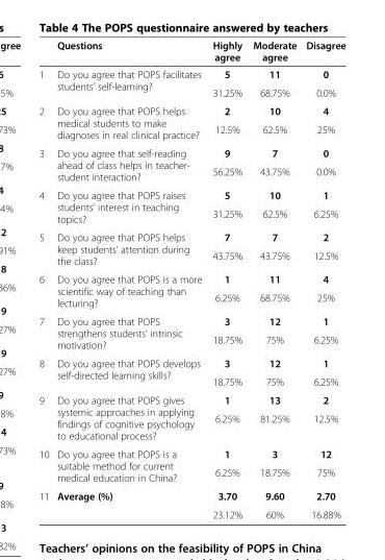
<table><thead><tr><td></td><td>Questions</td><td>Highly agree</td><td>Moderate agree</td><td>Disagree</td></tr></thead><tbody><tr><td rowspan="2">1</td><td rowspan="2">Do you agree that POPS facilitates students’ self-learning?</td><td>5</td><td>11</td><td>0</td></tr><tr><td>31.25%</td><td>68.75%</td><td>0.0%</td></tr><tr><td rowspan="2">2</td><td rowspan="2">Do you agree that POPS helps medical students to make diagnoses in real clinical practice?</td><td>2</td><td>10</td><td>4</td></tr><tr><td>12.5%</td><td>62.5%</td><td>25%</td></tr><tr><td rowspan="2">3</td><td rowspan="2">Do you agree that self-reading ahead of class helps in teacher- student interaction?</td><td>9</td><td>7</td><td>0</td></tr><tr><td>56.25%</td><td>43.75%</td><td>0.0%</td></tr><tr><td rowspan="2">4</td><td rowspan="2">Do you agree that POPS raises students’ interest in teaching topics?</td><td>5</td><td>10</td><td>1</td></tr><tr><td>31.25%</td><td>62.5%</td><td>6.25%</td></tr><tr><td rowspan="2">5</td><td rowspan="2">Do you agree that POPS helps keep students’ attention during the class?</td><td>7</td><td>7</td><td>2</td></tr><tr><td>43.75%</td><td>43.75%</td><td>12.5%</td></tr><tr><td rowspan="2">6</td><td rowspan="2">Do you agree that POPS is a more scientific way of teaching than lecturing?</td><td>1</td><td>11</td><td>4</td></tr><tr><td>6.25%</td><td>68.75%</td><td>25%</td></tr><tr><td rowspan="2">7</td><td rowspan="2">Do you agree that POPS strengthens students’ intrinsic motivation?</td><td>3</td><td>12</td><td>1</td></tr><tr><td>18.75%</td><td>75%</td><td>6.25%</td></tr><tr><td rowspan="2">8</td><td rowspan="2">Do you agree that POPS develops self-directed learning skills?</td><td>3</td><td>12</td><td>1</td></tr><tr><td>18.75%</td><td>75%</td><td>6.25%</td></tr><tr><td rowspan="2">9</td><td rowspan="2">Do you agree that POPS gives systemic approaches in applying findings of cognitive psychology to educational process?</td><td>1</td><td>13</td><td>2</td></tr><tr><td>6.25%</td><td>81.25%</td><td>12.5%</td></tr><tr><td rowspan="2">10</td><td rowspan="2">Do you agree that POPS is a suitable method for current medical education in China?</td><td>1</td><td>3</td><td>12</td></tr><tr><td>6.25%</td><td>18.75%</td><td>75%</td></tr><tr><td rowspan="2">11</td><td>Average (%)</td><td>3.70</td><td>9.60</td><td>2.70</td></tr><tr><td></td><td>23.12%</td><td>60%</td><td>16.88%</td></tr></tbody></table>